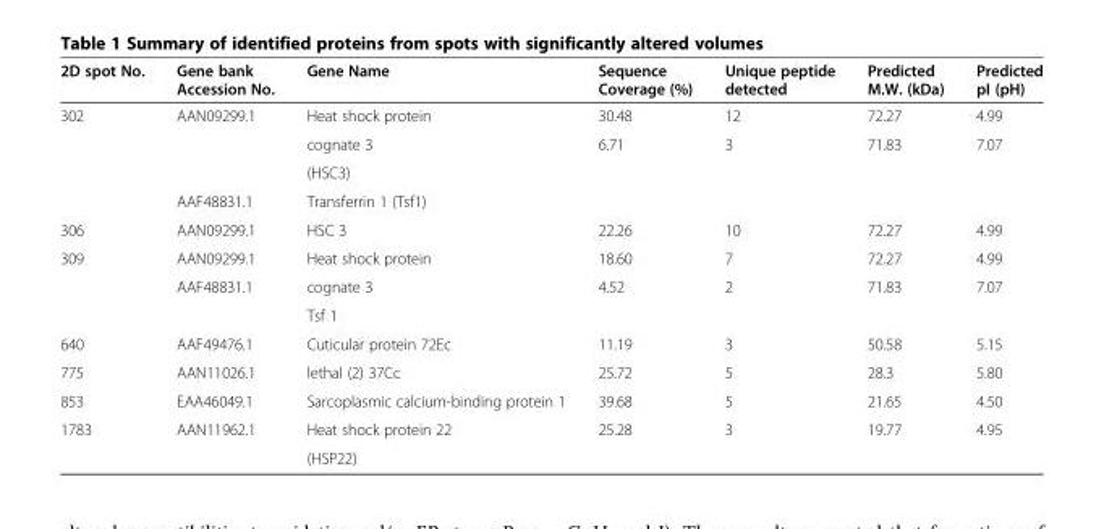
<table><thead><tr><td>2D spot No.</td><td>Gene bank Accession No.</td><td>Gene Name</td><td>Sequence Coverage (%)</td><td>Unique peptide detected</td><td>Predicted M.W. (kDa)</td><td>Predicted pI (pH)</td></tr></thead><tbody><tr><td rowspan="4">302</td><td>AAN09299.1</td><td>Heat shock protein</td><td>30.48</td><td>12</td><td>72.27</td><td>4.99</td></tr><tr><td></td><td>cognate 3</td><td>6.71</td><td>3</td><td>71.83</td><td>7.07</td></tr><tr><td></td><td>(HSC3)</td><td></td><td></td><td></td><td></td></tr><tr><td>AAF48831.1</td><td>Transferrin 1 (Tsf1)</td><td></td><td></td><td></td><td></td></tr><tr><td>306</td><td>AAN09299.1</td><td>HSC 3</td><td>22.26</td><td>10</td><td>72.27</td><td>4.99</td></tr><tr><td rowspan="3">309</td><td>AAN09299.1</td><td>Heat shock protein</td><td>18.60</td><td>7</td><td>72.27</td><td>4.99</td></tr><tr><td>AAF48831.1</td><td>cognate 3</td><td>4.52</td><td>2</td><td>71.83</td><td>7.07</td></tr><tr><td></td><td>Tsf 1</td><td></td><td></td><td></td><td></td></tr><tr><td>640</td><td>AAF49476.1</td><td>Cuticular protein 72Ec</td><td>11.19</td><td>3</td><td>50.58</td><td>5.15</td></tr><tr><td>775</td><td>AAN11026.1</td><td>lethal (2) 37Cc</td><td>25.72</td><td>5</td><td>28.3</td><td>5.80</td></tr><tr><td>853</td><td>EAA46049.1</td><td>Sarcoplasmic calcium-binding protein 1</td><td>39.68</td><td>5</td><td>21.65</td><td>4.50</td></tr><tr><td rowspan="2">1783</td><td rowspan="2">AAN11962.1</td><td>Heat shock protein 22</td><td rowspan="2">25.28</td><td rowspan="2">3</td><td rowspan="2">19.77</td><td rowspan="2">4.95</td></tr><tr><td>(HSP22)</td></tr></tbody></table>